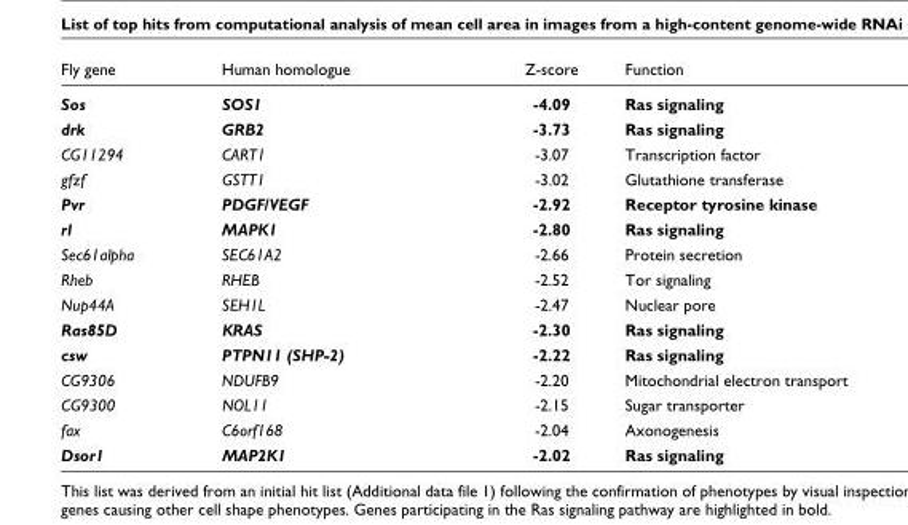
<table><thead><tr><td>Fly gene</td><td>Human homologue</td><td>Z-score</td><td>Function</td></tr></thead><tbody><tr><td>Sos</td><td>SOS1</td><td>-4.09</td><td>Ras signaling</td></tr><tr><td>drk</td><td>GRB2</td><td>-3.73</td><td>Ras signaling</td></tr><tr><td>CG11294</td><td>CART1</td><td>-3.07</td><td>Transcription factor</td></tr><tr><td>gfzf</td><td>GSTT1</td><td>-3.02</td><td>Glutathione transferase</td></tr><tr><td>Pvr</td><td>PDGF/VEGF</td><td>-2.92</td><td>Receptor tyrosine kinase</td></tr><tr><td>rl</td><td>MAPK1</td><td>-2.80</td><td>Ras signaling</td></tr><tr><td>Sec61alpha</td><td>SEC61A2</td><td>-2.66</td><td>Protein secretion</td></tr><tr><td>Rheb</td><td>RHEB</td><td>-2.52</td><td>Tor signaling</td></tr><tr><td>Nup44A</td><td>SEH1L</td><td>-2.47</td><td>Nuclear pore</td></tr><tr><td>Ras85D</td><td>KRAS</td><td>-2.30</td><td>Ras signaling</td></tr><tr><td>csw</td><td>PTPN11 (SHP-2)</td><td>-2.22</td><td>Ras signaling</td></tr><tr><td>CG9306</td><td>NDUFB9</td><td>-2.20</td><td>Mitochondrial electron transport</td></tr><tr><td>CG9300</td><td>NOL11</td><td>-2.15</td><td>Sugar transporter</td></tr><tr><td>fax</td><td>C6orf168</td><td>-2.04</td><td>Axonogenesis</td></tr><tr><td>Dsor1</td><td>MAP2K1</td><td>-2.02</td><td>Ras signaling</td></tr></tbody></table>